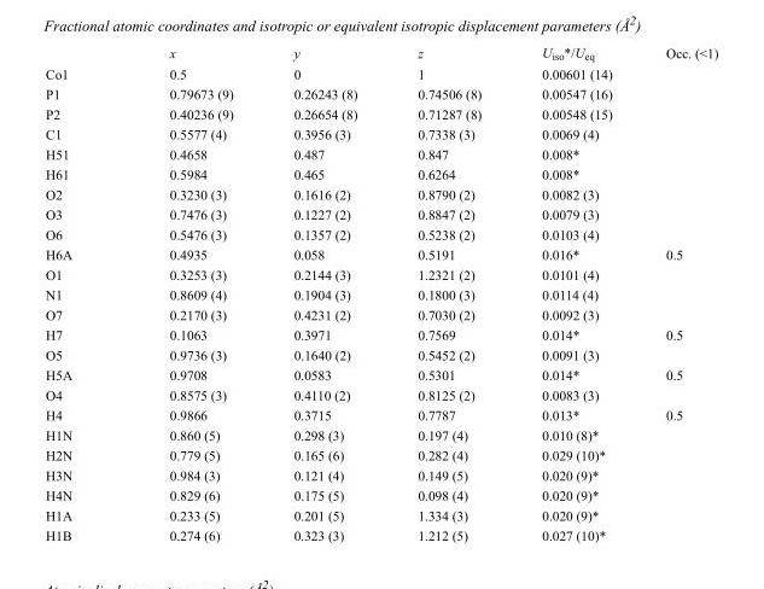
<table><thead><tr><td></td><td>x</td><td>y</td><td>z</td><td>U<sub>iso</sub>*/U<sub>eq</sub></td><td>Occ. (&lt;1)</td></tr></thead><tbody><tr><td>Co1</td><td>0.5</td><td>0</td><td>1</td><td>0.00601 (14)</td><td></td></tr><tr><td>P1</td><td>0.79673 (9)</td><td>0.26243 (8)</td><td>0.74506 (8)</td><td>0.00547 (16)</td><td></td></tr><tr><td>P2</td><td>0.40236 (9)</td><td>0.26654 (8)</td><td>0.71287 (8)</td><td>0.00548 (15)</td><td></td></tr><tr><td>C1</td><td>0.5577 (4)</td><td>0.3956 (3)</td><td>0.7338 (3)</td><td>0.0069 (4)</td><td></td></tr><tr><td>H51</td><td>0.4658</td><td>0.487</td><td>0.847</td><td>0.008*</td><td></td></tr><tr><td>H61</td><td>0.5984</td><td>0.465</td><td>0.6264</td><td>0.008*</td><td></td></tr><tr><td>O2</td><td>0.3230 (3)</td><td>0.1616 (2)</td><td>0.8790 (2)</td><td>0.0082 (3)</td><td></td></tr><tr><td>O3</td><td>0.7476 (3)</td><td>0.1227 (2)</td><td>0.8847 (2)</td><td>0.0079 (3)</td><td></td></tr><tr><td>O6</td><td>0.5476 (3)</td><td>0.1357 (2)</td><td>0.5238 (2)</td><td>0.0103 (4)</td><td></td></tr><tr><td>H6A</td><td>0.4935</td><td>0.058</td><td>0.5191</td><td>0.016*</td><td>0.5</td></tr><tr><td>O1</td><td>0.3253 (3)</td><td>0.2144 (3)</td><td>1.2321 (2)</td><td>0.0101 (4)</td><td></td></tr><tr><td>N1</td><td>0.8609 (4)</td><td>0.1904 (3)</td><td>0.1800 (3)</td><td>0.0114 (4)</td><td></td></tr><tr><td>O7</td><td>0.2170 (3)</td><td>0.4231 (2)</td><td>0.7030 (2)</td><td>0.0092 (3)</td><td></td></tr><tr><td>H7</td><td>0.1063</td><td>0.3971</td><td>0.7569</td><td>0.014*</td><td>0.5</td></tr><tr><td>O5</td><td>0.9736 (3)</td><td>0.1640 (2)</td><td>0.5452 (2)</td><td>0.0091 (3)</td><td></td></tr><tr><td>H5A</td><td>0.9708</td><td>0.0583</td><td>0.5301</td><td>0.014*</td><td>0.5</td></tr><tr><td>O4</td><td>0.8575 (3)</td><td>0.4110 (2)</td><td>0.8125 (2)</td><td>0.0083 (3)</td><td></td></tr><tr><td>H4</td><td>0.9866</td><td>0.3715</td><td>0.7787</td><td>0.013*</td><td>0.5</td></tr><tr><td>H1N</td><td>0.860 (5)</td><td>0.298 (3)</td><td>0.197 (4)</td><td>0.010 (8)*</td><td></td></tr><tr><td>H2N</td><td>0.779 (5)</td><td>0.165 (6)</td><td>0.282 (4)</td><td>0.029 (10)*</td><td></td></tr><tr><td>H3N</td><td>0.984 (3)</td><td>0.121 (4)</td><td>0.149 (5)</td><td>0.020 (9)*</td><td></td></tr><tr><td>H4N</td><td>0.829 (6)</td><td>0.175 (5)</td><td>0.098 (4)</td><td>0.020 (9)*</td><td></td></tr><tr><td>H1A</td><td>0.233 (5)</td><td>0.201 (5)</td><td>1.334 (3)</td><td>0.020 (9)*</td><td></td></tr><tr><td>H1B</td><td>0.274 (6)</td><td>0.323 (3)</td><td>1.212 (5)</td><td>0.027 (10)*</td><td></td></tr></tbody></table>